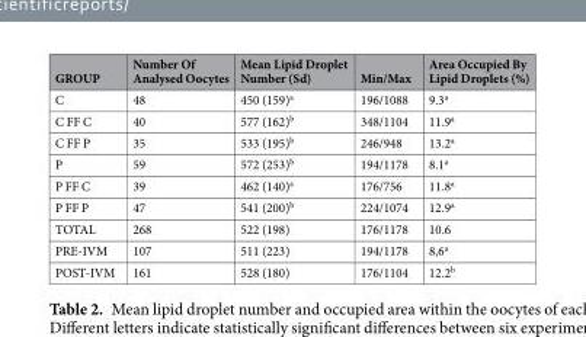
<table><thead><tr><td>GROUP</td><td>Number Of Analysed Oocytes</td><td>Mean Lipid Droplet Number (Sd)</td><td>Min/Max</td><td>Area Occupied By Lipid Droplets (%)</td></tr></thead><tbody><tr><td>C</td><td>48</td><td>450 (159)<sup>a</sup></td><td>196/1088</td><td>9.3<sup>a</sup></td></tr><tr><td>C FF C</td><td>40</td><td>577 (162)<sup>b</sup></td><td>348/1104</td><td>11.9<sup>a</sup></td></tr><tr><td>C FF P</td><td>35</td><td>533 (195)<sup>b</sup></td><td>246/948</td><td>13.2<sup>a</sup></td></tr><tr><td>P</td><td>59</td><td>572 (253)<sup>b</sup></td><td>194/1178</td><td>8.1<sup>a</sup></td></tr><tr><td>P FF C</td><td>39</td><td>462 (140)<sup>a</sup></td><td>176/756</td><td>11.8<sup>a</sup></td></tr><tr><td>P FF P</td><td>47</td><td>541 (200)<sup>b</sup></td><td>224/1074</td><td>12.9<sup>a</sup></td></tr><tr><td>TOTAL</td><td>268</td><td>522 (198)</td><td>176/1178</td><td>10.6</td></tr><tr><td>PRE-IVM</td><td>107</td><td>511 (223)</td><td>194/1178</td><td>8,6<sup>a</sup></td></tr><tr><td>POST-IVM</td><td>161</td><td>528 (180)</td><td>176/1104</td><td>12.2<sup>b</sup></td></tr></tbody></table>